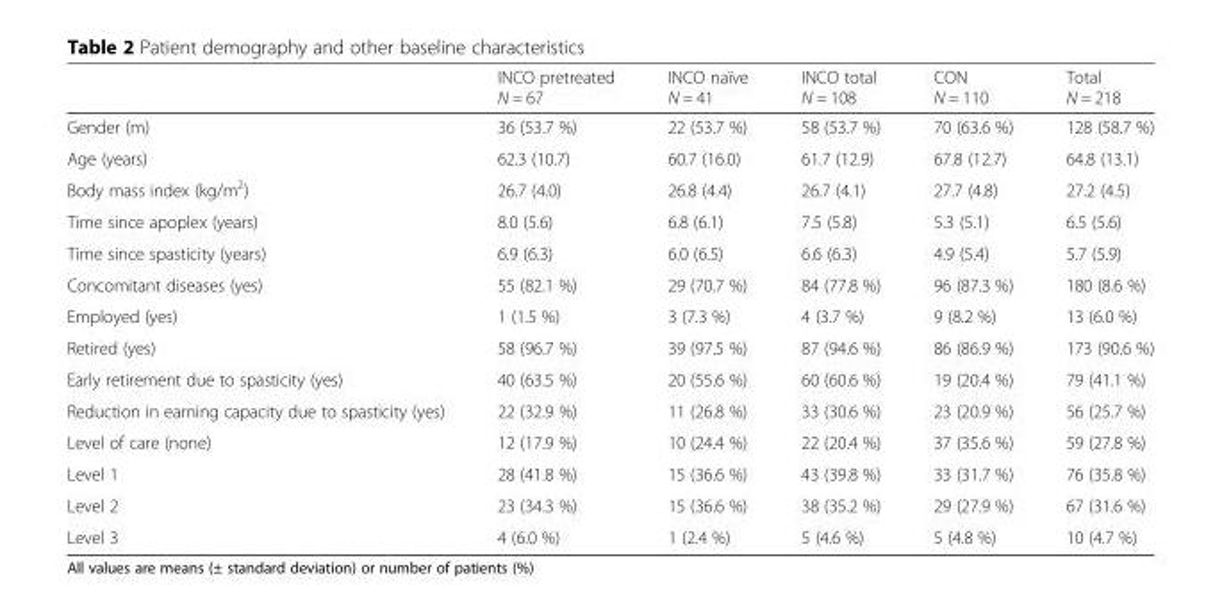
<table><thead><tr><td></td><td>INCO pretreated N = 67</td><td>INCO naïve N = 41</td><td>INCO total N = 108</td><td>CON N = 110</td><td>Total N = 218</td></tr></thead><tbody><tr><td>Gender (m)</td><td>36 (53.7 %)</td><td>22 (53.7 %)</td><td>58 (53.7 %)</td><td>70 (63.6 %)</td><td>128 (58.7 %)</td></tr><tr><td>Age (years)</td><td>62.3 (10.7)</td><td>60.7 (16.0)</td><td>61.7 (12.9)</td><td>67.8 (12.7)</td><td>64.8 (13.1)</td></tr><tr><td>Body mass index (kg/m<sup>2</sup>)</td><td>26.7 (4.0)</td><td>26.8 (4.4)</td><td>26.7 (4.1)</td><td>27.7 (4.8)</td><td>27.2 (4.5)</td></tr><tr><td>Time since apoplex (years)</td><td>8.0 (5.6)</td><td>6.8 (6.1)</td><td>7.5 (5.8)</td><td>5.3 (5.1)</td><td>6.5 (5.6)</td></tr><tr><td>Time since spasticity (years)</td><td>6.9 (6.3)</td><td>6.0 (6.5)</td><td>6.6 (6.3)</td><td>4.9 (5.4)</td><td>5.7 (5.9)</td></tr><tr><td>Concomitant diseases (yes)</td><td>55 (82.1 %)</td><td>29 (70.7 %)</td><td>84 (77.8 %)</td><td>96 (87.3 %)</td><td>180 (8.6 %)</td></tr><tr><td>Employed (yes)</td><td>1 (1.5 %)</td><td>3 (7.3 %)</td><td>4 (3.7 %)</td><td>9 (8.2 %)</td><td>13 (6.0 %)</td></tr><tr><td>Retired (yes)</td><td>58 (96.7 %)</td><td>39 (97.5 %)</td><td>87 (94.6 %)</td><td>86 (86.9 %)</td><td>173 (90.6 %)</td></tr><tr><td>Early retirement due to spasticity (yes)</td><td>40 (63.5 %)</td><td>20 (55.6 %)</td><td>60 (60.6 %)</td><td>19 (20.4 %)</td><td>79 (41.1 %)</td></tr><tr><td>Reduction in earning capacity due to spasticity (yes)</td><td>22 (32.9 %)</td><td>11 (26.8 %)</td><td>33 (30.6 %)</td><td>23 (20.9 %)</td><td>56 (25.7 %)</td></tr><tr><td>Level of care (none)</td><td>12 (17.9 %)</td><td>10 (24.4 %)</td><td>22 (20.4 %)</td><td>37 (35.6 %)</td><td>59 (27.8 %)</td></tr><tr><td>Level 1</td><td>28 (41.8 %)</td><td>15 (36.6 %)</td><td>43 (39.8 %)</td><td>33 (31.7 %)</td><td>76 (35.8 %)</td></tr><tr><td>Level 2</td><td>23 (34.3 %)</td><td>15 (36.6 %)</td><td>38 (35.2 %)</td><td>29 (27.9 %)</td><td>67 (31.6 %)</td></tr><tr><td>Level 3</td><td>4 (6.0 %)</td><td>1 (2.4 %)</td><td>5 (4.6 %)</td><td>5 (4.8 %)</td><td>10 (4.7 %)</td></tr></tbody></table>